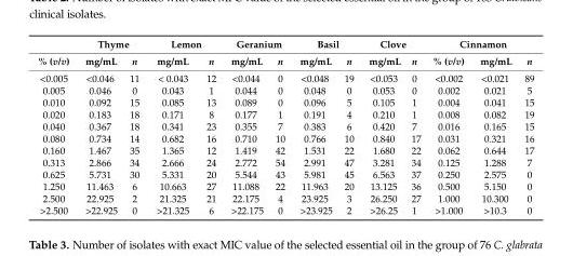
<table><thead><tr><td rowspan="2">% (v/v)</td><td colspan="2">Thyme</td><td colspan="2">Lemon</td><td colspan="2">Geranium</td><td colspan="2">Basil</td><td colspan="2">Clove</td><td colspan="3">Cinnamon</td></tr><tr><td>mg/mL</td><td>n</td><td>mg/mL</td><td>n</td><td>mg/mL</td><td>n</td><td>mg/mL</td><td>n</td><td>mg/mL</td><td>n</td><td>% (v/v)</td><td>mg/mL</td><td>n</td></tr></thead><tbody><tr><td>&lt;0.005</td><td>&lt;0.046</td><td>11</td><td>&lt; 0.043</td><td>12</td><td>&lt;0.044</td><td>0</td><td>&lt;0.048</td><td>19</td><td>&lt;0.053</td><td>0</td><td>&lt;0.002</td><td>&lt;0.021</td><td>89</td></tr><tr><td>0.005</td><td>0.046</td><td>0</td><td>0.043</td><td>1</td><td>0.044</td><td>0</td><td>0.048</td><td>0</td><td>0.053</td><td>0</td><td>0.002</td><td>0.021</td><td>5</td></tr><tr><td>0.010</td><td>0.092</td><td>15</td><td>0.085</td><td>13</td><td>0.089</td><td>0</td><td>0.096</td><td>5</td><td>0.105</td><td>1</td><td>0.004</td><td>0.041</td><td>15</td></tr><tr><td>0.020</td><td>0.183</td><td>18</td><td>0.171</td><td>8</td><td>0.177</td><td>1</td><td>0.191</td><td>4</td><td>0.210</td><td>1</td><td>0.008</td><td>0.082</td><td>19</td></tr><tr><td>0.040</td><td>0.367</td><td>18</td><td>0.341</td><td>23</td><td>0.355</td><td>7</td><td>0.383</td><td>6</td><td>0.420</td><td>7</td><td>0.016</td><td>0.165</td><td>15</td></tr><tr><td>0.080</td><td>0.734</td><td>14</td><td>0.682</td><td>16</td><td>0.710</td><td>10</td><td>0.766</td><td>10</td><td>0.840</td><td>17</td><td>0.031</td><td>0.321</td><td>16</td></tr><tr><td>0.160</td><td>1.467</td><td>35</td><td>1.365</td><td>12</td><td>1.419</td><td>42</td><td>1.531</td><td>22</td><td>1.680</td><td>22</td><td>0.062</td><td>0.644</td><td>17</td></tr><tr><td>0.313</td><td>2.866</td><td>34</td><td>2.666</td><td>24</td><td>2.772</td><td>54</td><td>2.991</td><td>47</td><td>3.281</td><td>34</td><td>0.125</td><td>1.288</td><td>7</td></tr><tr><td>0.625</td><td>5.731</td><td>30</td><td>5.331</td><td>20</td><td>5.544</td><td>43</td><td>5.981</td><td>45</td><td>6.563</td><td>37</td><td>0.250</td><td>2.575</td><td>0</td></tr><tr><td>1.250</td><td>11.463</td><td>6</td><td>10.663</td><td>27</td><td>11.088</td><td>22</td><td>11.963</td><td>20</td><td>13.125</td><td>36</td><td>0.500</td><td>5.150</td><td>0</td></tr><tr><td>2.500</td><td>22.925</td><td>2</td><td>21.325</td><td>21</td><td>22.175</td><td>4</td><td>23.925</td><td>3</td><td>26.250</td><td>27</td><td>1.000</td><td>10.300</td><td>0</td></tr><tr><td>&gt;2.500</td><td>&gt;22.925</td><td>0</td><td>&gt;21.325</td><td>6</td><td>&gt;22.175</td><td>0</td><td>&gt;23.925</td><td>2</td><td>&gt;26.25</td><td>1</td><td>&gt;1.000</td><td>&gt;10.3</td><td>0</td></tr></tbody></table>